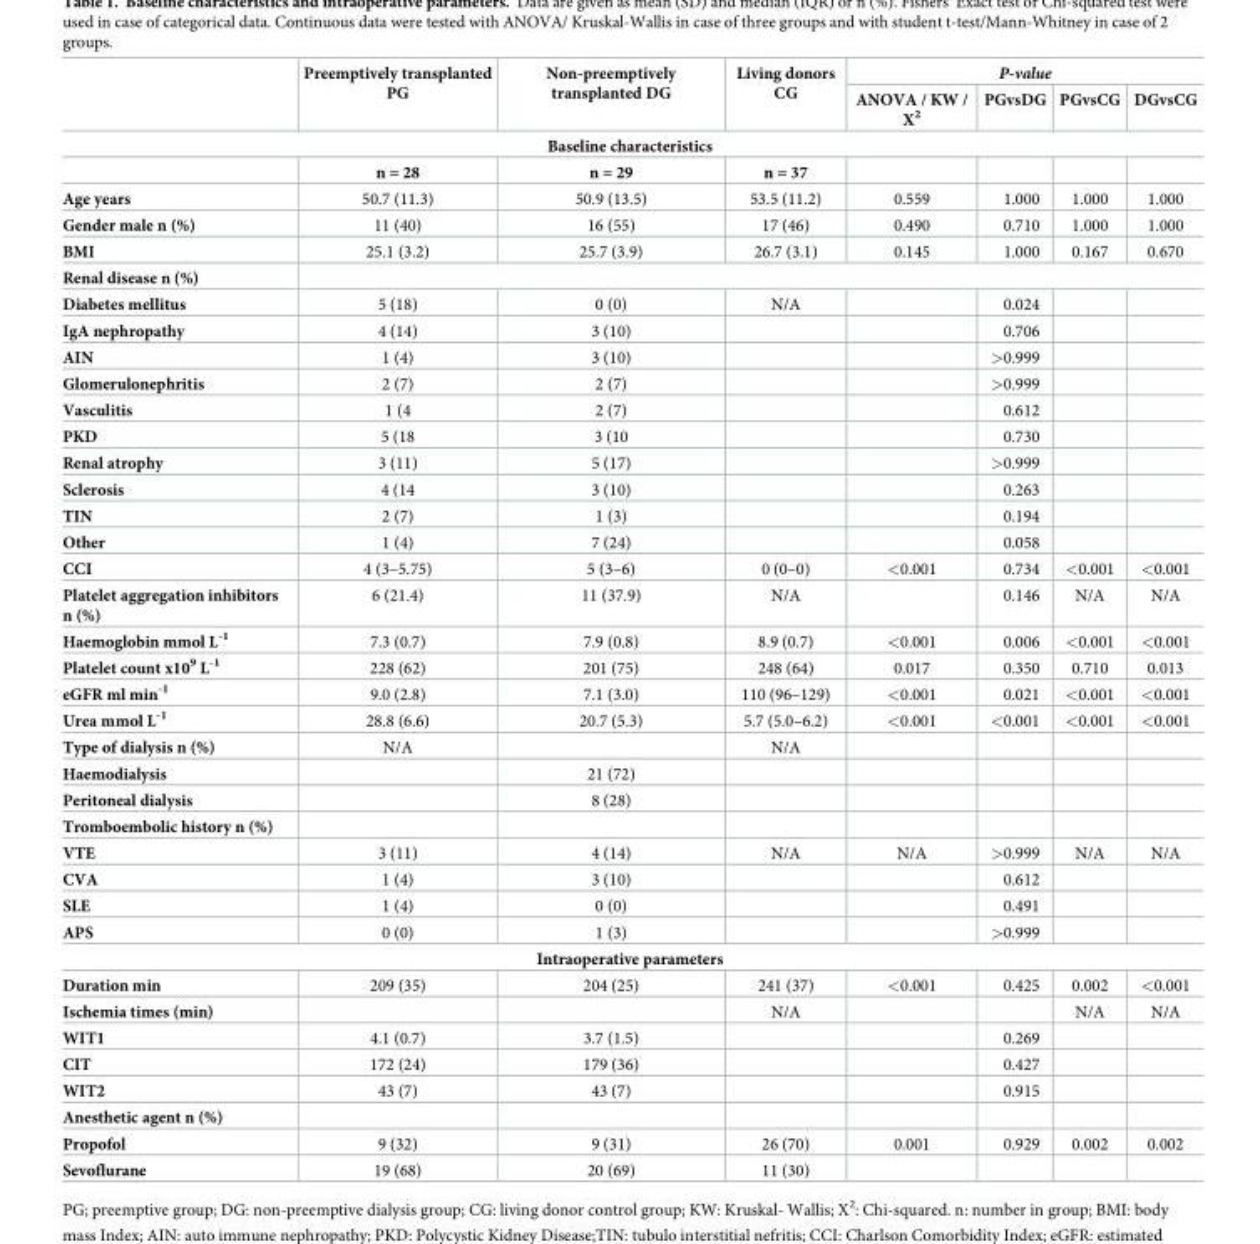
<table><thead><tr><td rowspan="2"></td><td rowspan="2">Preemptively transplanted PG</td><td rowspan="2">Non-preemptively transplanted DG</td><td rowspan="2">Living donors CG</td><td colspan="4">P-value</td></tr><tr><td>ANOVA / KW / X<sup>2</sup></td><td>PGvsDG</td><td>PGvsCG</td><td>DGvsCG</td></tr></thead><tbody><tr><td colspan="8">Baseline characteristics</td></tr><tr><td></td><td>n = 28</td><td>n = 29</td><td>n = 37</td><td></td><td></td><td></td><td></td></tr><tr><td>Age years</td><td>50.7 (11.3)</td><td>50.9 (13.5)</td><td>53.5 (11.2)</td><td>0.559</td><td>1.000</td><td>1.000</td><td>1.000</td></tr><tr><td>Gender male n (%)</td><td>11 (40)</td><td>16 (55)</td><td>17 (46)</td><td>0.490</td><td>0.710</td><td>1.000</td><td>1.000</td></tr><tr><td>BMI</td><td>25.1 (3.2)</td><td>25.7 (3.9)</td><td>26.7 (3.1)</td><td>0.145</td><td>1.000</td><td>0.167</td><td>0.670</td></tr><tr><td colspan="8">Renal disease n (%)</td></tr><tr><td>Diabetes mellitus</td><td>5 (18)</td><td>0 (0)</td><td>N/A</td><td></td><td>0.024</td><td></td><td></td></tr><tr><td>IgA nephropathy</td><td>4 (14)</td><td>3 (10)</td><td></td><td></td><td>0.706</td><td></td><td></td></tr><tr><td>AIN</td><td>1 (4)</td><td>3 (10)</td><td></td><td></td><td>&gt;0.999</td><td></td><td></td></tr><tr><td>Glomerulonephritis</td><td>2 (7)</td><td>2 (7)</td><td></td><td></td><td>&gt;0.999</td><td></td><td></td></tr><tr><td>Vasculitis</td><td>1 (4</td><td>2 (7)</td><td></td><td></td><td>0.612</td><td></td><td></td></tr><tr><td>PKD</td><td>5 (18</td><td>3 (10</td><td></td><td></td><td>0.730</td><td></td><td></td></tr><tr><td>Renal atrophy</td><td>3 (11)</td><td>5 (17)</td><td></td><td></td><td>&gt;0.999</td><td></td><td></td></tr><tr><td>Sclerosis</td><td>4 (14</td><td>3 (10)</td><td></td><td></td><td>0.263</td><td></td><td></td></tr><tr><td>TIN</td><td>2 (7)</td><td>1 (3)</td><td></td><td></td><td>0.194</td><td></td><td></td></tr><tr><td>Other</td><td>1 (4)</td><td>7 (24)</td><td></td><td></td><td>0.058</td><td></td><td></td></tr><tr><td>CCI</td><td>4 (3–5.75)</td><td>5 (3–6)</td><td>0 (0–0)</td><td>&lt;0.001</td><td>0.734</td><td>&lt;0.001</td><td>&lt;0.001</td></tr><tr><td>Platelet aggregation inhibitors n (%)</td><td>6 (21.4)</td><td>11 (37.9)</td><td>N/A</td><td></td><td>0.146</td><td>N/A</td><td>N/A</td></tr><tr><td>Haemoglobin mmol L<sup>-1</sup></td><td>7.3 (0.7)</td><td>7.9 (0.8)</td><td>8.9 (0.7)</td><td>&lt;0.001</td><td>0.006</td><td>&lt;0.001</td><td>&lt;0.001</td></tr><tr><td>Platelet count x10<sup>9</sup> L<sup>-1</sup></td><td>228 (62)</td><td>201 (75)</td><td>248 (64)</td><td>0.017</td><td>0.350</td><td>0.710</td><td>0.013</td></tr><tr><td>eGFR ml min<sup>-1</sup></td><td>9.0 (2.8)</td><td>7.1 (3.0)</td><td>110 (96–129)</td><td>&lt;0.001</td><td>0.021</td><td>&lt;0.001</td><td>&lt;0.001</td></tr><tr><td>Urea mmol L<sup>-1</sup></td><td>28.8 (6.6)</td><td>20.7 (5.3)</td><td>5.7 (5.0–6.2)</td><td>&lt;0.001</td><td>&lt;0.001</td><td>&lt;0.001</td><td>&lt;0.001</td></tr><tr><td>Type of dialysis n (%)</td><td>N/A</td><td></td><td>N/A</td><td></td><td></td><td></td><td></td></tr><tr><td>Haemodialysis</td><td></td><td>21 (72)</td><td></td><td></td><td></td><td></td><td></td></tr><tr><td>Peritoneal dialysis</td><td></td><td>8 (28)</td><td></td><td></td><td></td><td></td><td></td></tr><tr><td colspan="8">Tromboembolic history n (%)</td></tr><tr><td>VTE</td><td>3 (11)</td><td>4 (14)</td><td>N/A</td><td>N/A</td><td>&gt;0.999</td><td>N/A</td><td>N/A</td></tr><tr><td>CVA</td><td>1 (4)</td><td>3 (10)</td><td></td><td></td><td>0.612</td><td></td><td></td></tr><tr><td>SLE</td><td>1 (4)</td><td>0 (0)</td><td></td><td></td><td>0.491</td><td></td><td></td></tr><tr><td>APS</td><td>0 (0)</td><td>1 (3)</td><td></td><td></td><td>&gt;0.999</td><td></td><td></td></tr><tr><td colspan="8">Intraoperative parameters</td></tr><tr><td>Duration min</td><td>209 (35)</td><td>204 (25)</td><td>241 (37)</td><td>&lt;0.001</td><td>0.425</td><td>0.002</td><td>&lt;0.001</td></tr><tr><td>Ischemia times (min)</td><td></td><td></td><td>N/A</td><td></td><td></td><td>N/A</td><td>N/A</td></tr><tr><td>WIT1</td><td>4.1 (0.7)</td><td>3.7 (1.5)</td><td></td><td></td><td>0.269</td><td></td><td></td></tr><tr><td>CIT</td><td>172 (24)</td><td>179 (36)</td><td></td><td></td><td>0.427</td><td></td><td></td></tr><tr><td>WIT2</td><td>43 (7)</td><td>43 (7)</td><td></td><td></td><td>0.915</td><td></td><td></td></tr><tr><td colspan="8">Anesthetic agent n (%)</td></tr><tr><td>Propofol</td><td>9 (32)</td><td>9 (31)</td><td>26 (70)</td><td>0.001</td><td>0.929</td><td>0.002</td><td>0.002</td></tr><tr><td>Sevoflurane</td><td>19 (68)</td><td>20 (69)</td><td>11 (30)</td><td></td><td></td><td></td><td></td></tr></tbody></table>